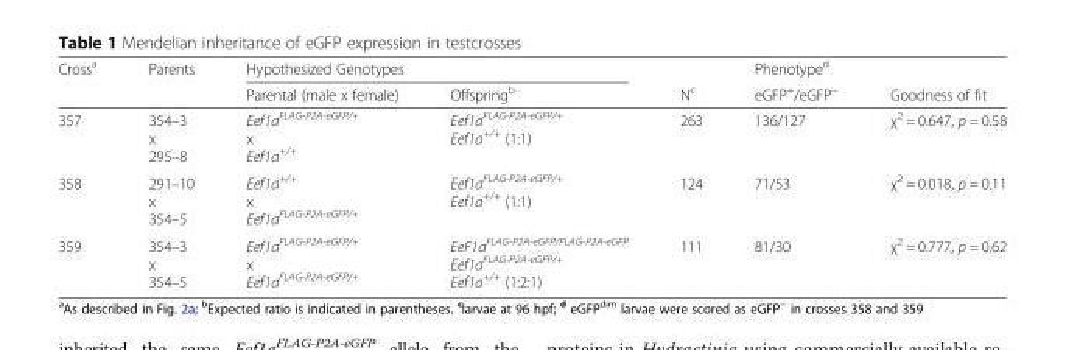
<table><thead><tr><td rowspan="2">Cross<sup>a</sup></td><td rowspan="2">Parents</td><td colspan="2">Hypothesized Genotypes</td><td rowspan="2">N<sup>c</sup></td><td rowspan="2">Phenotype<sup>d</sup> eGFP<sup>+</sup>/eGFP<sup>−</sup></td><td rowspan="2">Goodness of fit</td></tr><tr><td>Parental (male x female)</td><td>Offspring<sup>b</sup></td></tr></thead><tbody><tr><td>357</td><td>354–3 x 295–8</td><td>Eef1a<sup>FLAG-P2A-eGFP/+</sup> x Eef1a<sup>+/+</sup></td><td>Eef1a<sup>FLAG-P2A-eGFP/+</sup> Eef1a<sup>+/+</sup> (1:1)</td><td>263</td><td>136/127</td><td>χ<sup>2</sup> = 0.647, p = 0.58</td></tr><tr><td>358</td><td>291–10 x 354–5</td><td>Eef1a<sup>+/+</sup> x Eef1a<sup>FLAG-P2A-eGFP/+</sup></td><td>Eef1a<sup>FLAG-P2A-eGFP/+</sup> Eef1a<sup>+/+</sup> (1:1)</td><td>124</td><td>71/53</td><td>χ<sup>2</sup> = 0.018, p = 0.11</td></tr><tr><td>359</td><td>354–3 x 354–5</td><td>Eef1a<sup>FLAG-P2A-eGFP/+</sup> x Eef1a<sup>FLAG-P2A-eGFP/+</sup></td><td>EeF1a<sup>FLAG-P2A-eGFP/FLAG-P2A-eGFP</sup> Eef1a<sup>FLAG-P2A-eGFP/+</sup> Eef1a<sup>+/+</sup> (1:2:1)</td><td>111</td><td>81/30</td><td>χ<sup>2</sup> = 0.777, p = 0.62</td></tr></tbody></table>